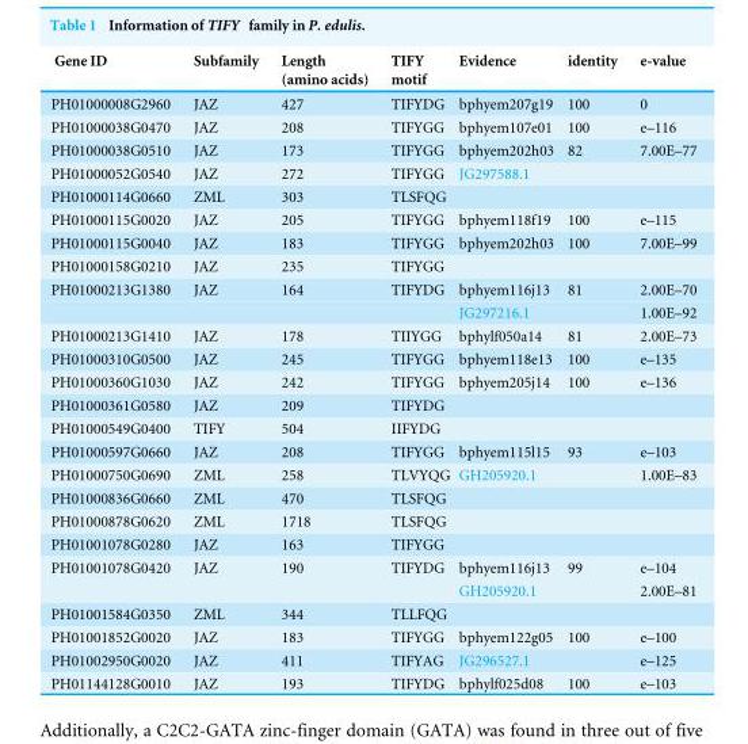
<table><thead><tr><td>Gene ID</td><td>Subfamily</td><td>Length (amino acids)</td><td>TIFY motif</td><td>Evidence</td><td>identity</td><td>e-value</td></tr></thead><tbody><tr><td>PH01000008G2960</td><td>JAZ</td><td>427</td><td>TIFYDG</td><td>bphyem207g19</td><td>100</td><td>0</td></tr><tr><td>PH01000038G0470</td><td>JAZ</td><td>208</td><td>TIFYGG</td><td>bphyem107e01</td><td>100</td><td>e–116</td></tr><tr><td>PH01000038G0510</td><td>JAZ</td><td>173</td><td>TIFYGG</td><td>bphyem202h03</td><td>82</td><td>7.00E–77</td></tr><tr><td>PH01000052G0540</td><td>JAZ</td><td>272</td><td>TIFYGG</td><td>JG297588.1</td><td></td><td></td></tr><tr><td>PH01000114G0660</td><td>ZML</td><td>303</td><td>TLSFQG</td><td></td><td></td><td></td></tr><tr><td>PH01000115G0020</td><td>JAZ</td><td>205</td><td>TIFYGG</td><td>bphyem118f19</td><td>100</td><td>e–115</td></tr><tr><td>PH01000115G0040</td><td>JAZ</td><td>183</td><td>TIFYGG</td><td>bphyem202h03</td><td>100</td><td>7.00E–99</td></tr><tr><td>PH01000158G0210</td><td>JAZ</td><td>235</td><td>TIFYGG</td><td></td><td></td><td></td></tr><tr><td rowspan="2">PH01000213G1380</td><td>JAZ</td><td>164</td><td>TIFYDG</td><td>bphyem116j13</td><td>81</td><td>2.00E–70</td></tr><tr><td></td><td></td><td></td><td>JG297216.1</td><td></td><td>1.00E–92</td></tr><tr><td>PH01000213G1410</td><td>JAZ</td><td>178</td><td>TIIYGG</td><td>bphylf050a14</td><td>81</td><td>2.00E–73</td></tr><tr><td>PH01000310G0500</td><td>JAZ</td><td>245</td><td>TIFYGG</td><td>bphyem118e13</td><td>100</td><td>e–135</td></tr><tr><td>PH01000360G1030</td><td>JAZ</td><td>242</td><td>TIFYGG</td><td>bphyem205j14</td><td>100</td><td>e–136</td></tr><tr><td>PH01000361G0580</td><td>JAZ</td><td>209</td><td>TIFYDG</td><td></td><td></td><td></td></tr><tr><td>PH01000549G0400</td><td>TIFY</td><td>504</td><td>IIFYDG</td><td></td><td></td><td></td></tr><tr><td>PH01000597G0660</td><td>JAZ</td><td>208</td><td>TIFYGG</td><td>bphyem115l15</td><td>93</td><td>e–103</td></tr><tr><td>PH01000750G0690</td><td>ZML</td><td>258</td><td>TLVYQG</td><td>GH205920.1</td><td></td><td>1.00E–83</td></tr><tr><td>PH01000836G0660</td><td>ZML</td><td>470</td><td>TLSFQG</td><td></td><td></td><td></td></tr><tr><td>PH01000878G0620</td><td>ZML</td><td>1718</td><td>TLSFQG</td><td></td><td></td><td></td></tr><tr><td>PH01001078G0280</td><td>JAZ</td><td>163</td><td>TIFYGG</td><td></td><td></td><td></td></tr><tr><td rowspan="2">PH01001078G0420</td><td>JAZ</td><td>190</td><td>TIFYDG</td><td>bphyem116j13</td><td>99</td><td>e–104</td></tr><tr><td></td><td></td><td></td><td>GH205920.1</td><td></td><td>2.00E–81</td></tr><tr><td>PH01001584G0350</td><td>ZML</td><td>344</td><td>TLLFQG</td><td></td><td></td><td></td></tr><tr><td>PH01001852G0020</td><td>JAZ</td><td>183</td><td>TIFYGG</td><td>bphyem122g05</td><td>100</td><td>e–100</td></tr><tr><td>PH01002950G0020</td><td>JAZ</td><td>411</td><td>TIFYAG</td><td>JG296527.1</td><td></td><td>e–125</td></tr><tr><td>PH01144128G0010</td><td>JAZ</td><td>193</td><td>TIFYDG</td><td>bphylf025d08</td><td>100</td><td>e–103</td></tr></tbody></table>